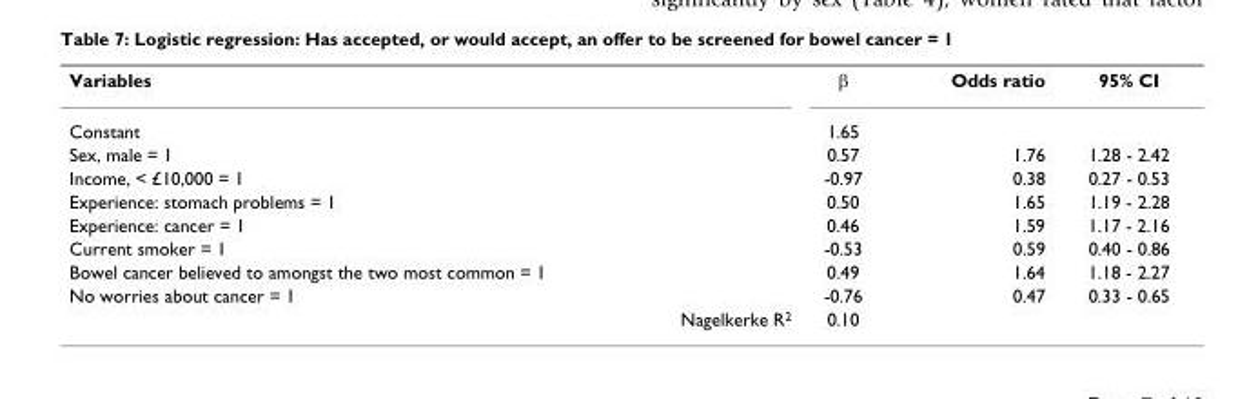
<table><tbody><tr><td>Variables</td><td>β</td><td>Odds ratio</td><td>95% CI</td></tr><tr><td>Constant</td><td>1.65</td><td></td><td></td></tr><tr><td>Sex, male = 1</td><td>0.57</td><td>1.76</td><td>1.28 - 2.42</td></tr><tr><td>Income, &lt; £10,000 = 1</td><td>-0.97</td><td>0.38</td><td>0.27 - 0.53</td></tr><tr><td>Experience: stomach problems = 1</td><td>0.50</td><td>1.65</td><td>1.19 - 2.28</td></tr><tr><td>Experience: cancer = 1</td><td>0.46</td><td>1.59</td><td>1.17 - 2.16</td></tr><tr><td>Current smoker = 1</td><td>-0.53</td><td>0.59</td><td>0.40 - 0.86</td></tr><tr><td>Bowel cancer believed to amongst the two most common = 1</td><td>0.49</td><td>1.64</td><td>1.18 - 2.27</td></tr><tr><td>No worries about cancer = 1</td><td>-0.76</td><td>0.47</td><td>0.33 - 0.65</td></tr><tr><td>Nagelkerke R<sup>2</sup></td><td>0.10</td><td></td><td></td></tr></tbody></table>